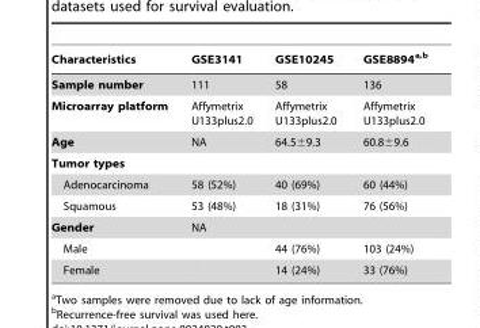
<table><thead><tr><td>Characteristics</td><td>GSE3141</td><td>GSE10245</td><td>GSE8894<sup>a,</sup>b</td></tr></thead><tbody><tr><td>Sample number</td><td>111</td><td>58</td><td>136</td></tr><tr><td>Microarray platform</td><td>Affymetrix U133plus2.0</td><td>Affymetrix U133plus2.0</td><td>Affymetrix U133plus2.0</td></tr><tr><td>Age</td><td>NA</td><td>64.5±9.3</td><td>60.8±9.6</td></tr><tr><td colspan="4">Tumor types</td></tr><tr><td>Adenocarcinoma</td><td>58 (52%)</td><td>40 (69%)</td><td>60 (44%)</td></tr><tr><td>Squamous</td><td>53 (48%)</td><td>18 (31%)</td><td>76 (56%)</td></tr><tr><td>Gender</td><td>NA</td><td></td><td></td></tr><tr><td>Male</td><td></td><td>44 (76%)</td><td>103 (24%)</td></tr><tr><td>Female</td><td></td><td>14 (24%)</td><td>33 (76%)</td></tr></tbody></table>